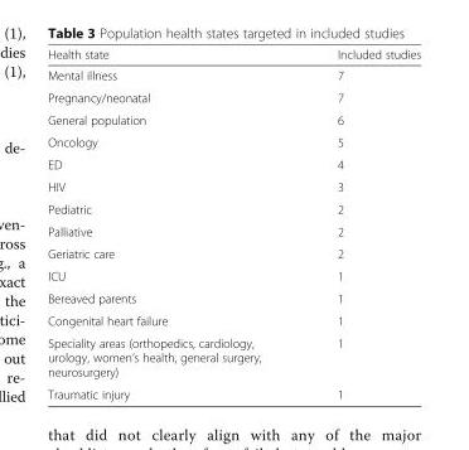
<table><thead><tr><td>Health state</td><td>Included studies</td></tr></thead><tbody><tr><td>Mental illness</td><td>7</td></tr><tr><td>Pregnancy/neonatal</td><td>7</td></tr><tr><td>General population</td><td>6</td></tr><tr><td>Oncology</td><td>5</td></tr><tr><td>ED</td><td>4</td></tr><tr><td>HIV</td><td>3</td></tr><tr><td>Pediatric</td><td>2</td></tr><tr><td>Palliative</td><td>2</td></tr><tr><td>Geriatric care</td><td>2</td></tr><tr><td>ICU</td><td>1</td></tr><tr><td>Bereaved parents</td><td>1</td></tr><tr><td>Congenital heart failure</td><td>1</td></tr><tr><td>Speciality areas (orthopedics, cardiology, urology, women’s health, general surgery, neurosurgery)</td><td>1</td></tr><tr><td>Traumatic injury</td><td>1</td></tr></tbody></table>